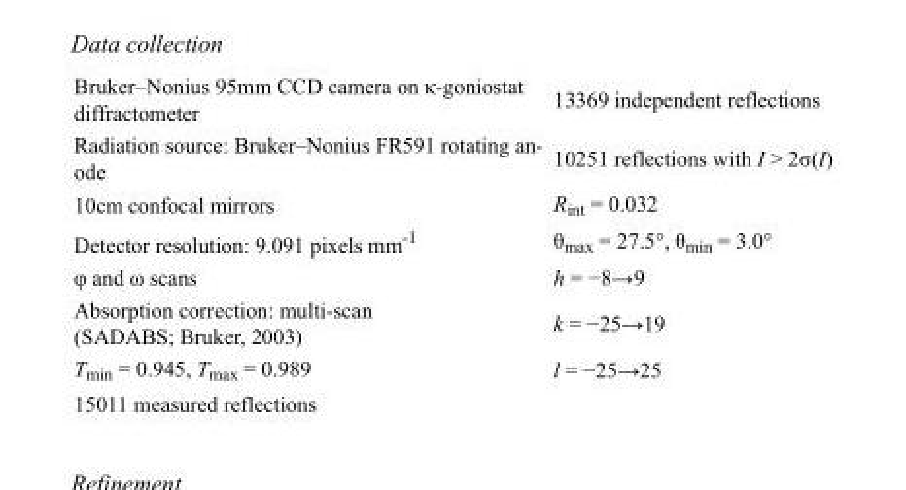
<table><tbody><tr><td>Bruker–Nonius 95mm CCD camera on κ-goniostat diffractometer</td><td>13369 independent reflections</td></tr><tr><td>Radiation source: Bruker–Nonius FR591 rotating an- ode</td><td>10251 reflections with I &gt; 2σ(I)</td></tr><tr><td>10cm confocal mirrors</td><td>R<sub>int</sub> = 0.032</td></tr><tr><td>Detector resolution: 9.091 pixels mm<sup>-1</sup></td><td>θ<sub>max</sub> = 27.5°, θ<sub>min</sub> = 3.0°</td></tr><tr><td>φ and ω scans</td><td>h = −8→9</td></tr><tr><td>Absorption correction: multi-scan (SADABS; Bruker, 2003)</td><td>k = −25→19</td></tr><tr><td>T<sub>min</sub> = 0.945, T<sub>max</sub> = 0.989</td><td>l = −25→25</td></tr><tr><td>15011 measured reflections</td><td></td></tr></tbody></table>